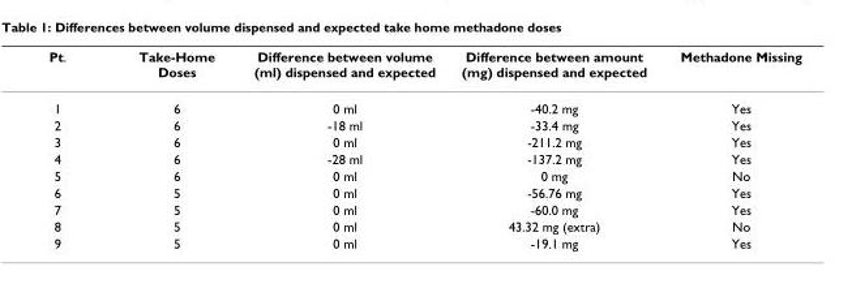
<table><thead><tr><td>Pt.</td><td>Take-Home Doses</td><td>Difference between volume (ml) dispensed and expected</td><td>Difference between amount (mg) dispensed and expected</td><td>Methadone Missing</td></tr></thead><tbody><tr><td>1</td><td>6</td><td>0 ml</td><td>-40.2 mg</td><td>Yes</td></tr><tr><td>2</td><td>6</td><td>-18 ml</td><td>-33.4 mg</td><td>Yes</td></tr><tr><td>3</td><td>6</td><td>0 ml</td><td>-211.2 mg</td><td>Yes</td></tr><tr><td>4</td><td>6</td><td>-28 ml</td><td>-137.2 mg</td><td>Yes</td></tr><tr><td>5</td><td>6</td><td>0 ml</td><td>0 mg</td><td>No</td></tr><tr><td>6</td><td>5</td><td>0 ml</td><td>-56.76 mg</td><td>Yes</td></tr><tr><td>7</td><td>5</td><td>0 ml</td><td>-60.0 mg</td><td>Yes</td></tr><tr><td>8</td><td>5</td><td>0 ml</td><td>43.32 mg (extra)</td><td>No</td></tr><tr><td>9</td><td>5</td><td>0 ml</td><td>-19.1 mg</td><td>Yes</td></tr></tbody></table>